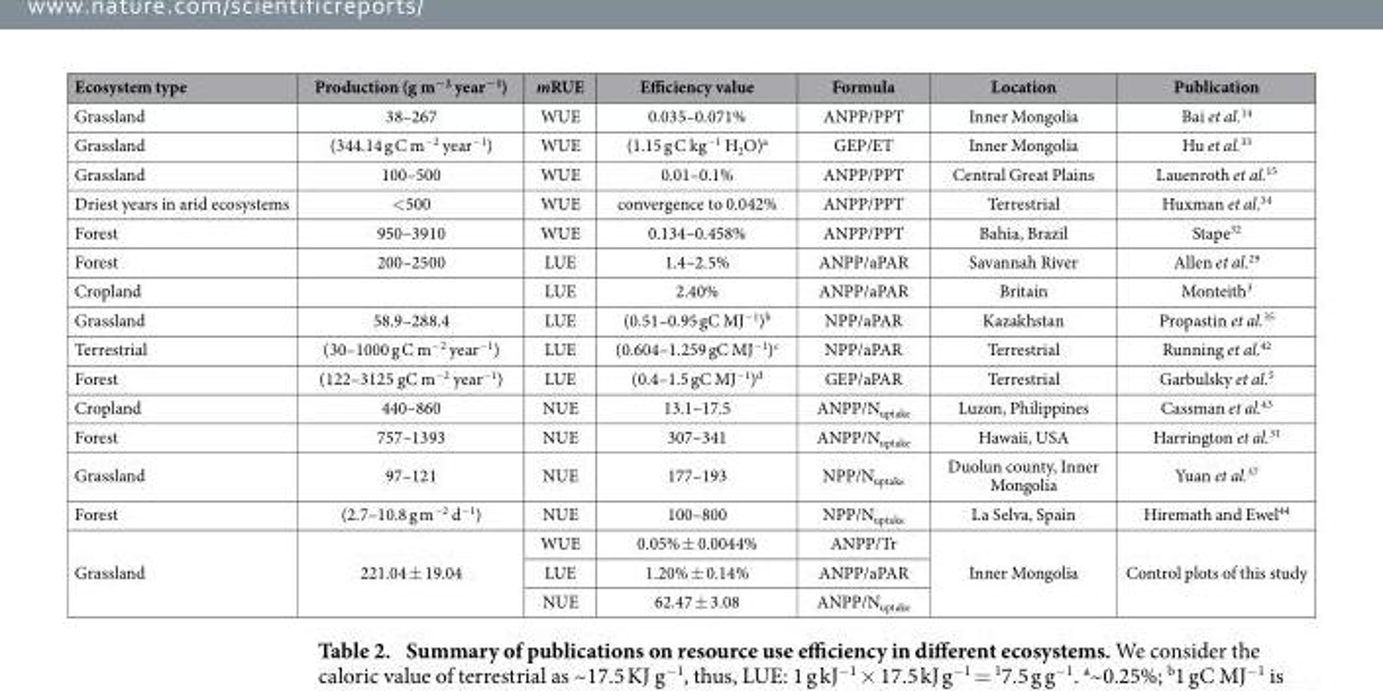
<table><thead><tr><td>Ecosystem type</td><td>Production (g m<sup>−2</sup> year<sup>−1</sup>)</td><td>mRUE</td><td>Efficiency value</td><td>Formula</td><td>Location</td><td>Publication</td></tr></thead><tbody><tr><td>Grassland</td><td>38–267</td><td>WUE</td><td>0.035–0.071%</td><td>ANPP/PPT</td><td>Inner Mongolia</td><td>Bai et al.<sup>14</sup></td></tr><tr><td>Grassland</td><td>(344.14 g C m<sup>−2</sup> year<sup>−1</sup>)</td><td>WUE</td><td>(1.15 g C kg<sup>−1</sup> H<sub>2</sub>O)<sup>a</sup></td><td>GEP/ET</td><td>Inner Mongolia</td><td>Hu et al.<sup>33</sup></td></tr><tr><td>Grassland</td><td>100–500</td><td>WUE</td><td>0.01–0.1%</td><td>ANPP/PPT</td><td>Central Great Plains</td><td>Lauenroth et al.<sup>15</sup></td></tr><tr><td>Driest years in arid ecosystems</td><td>&lt; 500</td><td>WUE</td><td>convergence to 0.042%</td><td>ANPP/PPT</td><td>Terrestrial</td><td>Huxman et al.<sup>34</sup></td></tr><tr><td>Forest</td><td>950–3910</td><td>WUE</td><td>0.134–0.458%</td><td>ANPP/PPT</td><td>Bahia, Brazil</td><td>Stape<sup>32</sup></td></tr><tr><td>Forest</td><td>200–2500</td><td>LUE</td><td>1.4–2.5%</td><td>ANPP/aPAR</td><td>Savannah River</td><td>Allen et al.<sup>29</sup></td></tr><tr><td>Cropland</td><td></td><td>LUE</td><td>2.40%</td><td>ANPP/aPAR</td><td>Britain</td><td>Monteith<sup>3</sup></td></tr><tr><td>Grassland</td><td>58.9–288.4</td><td>LUE</td><td>(0.51–0.95 gC MJ<sup>−1</sup>)<sup>b</sup></td><td>NPP/aPAR</td><td>Kazakhstan</td><td>Propastin et al.<sup>35</sup></td></tr><tr><td>Terrestrial</td><td>(30–1000 g C m<sup>−2</sup> year<sup>−1</sup>)</td><td>LUE</td><td>(0.604–1.259 gC MJ<sup>−1</sup>)<sup>c</sup></td><td>NPP/aPAR</td><td>Terrestrial</td><td>Running et al.<sup>42</sup></td></tr><tr><td>Forest</td><td>(122–3125 gC m<sup>−2</sup> year<sup>−1</sup>)</td><td>LUE</td><td>(0.4–1.5 gC MJ<sup>−1</sup>)<sup>d</sup></td><td>GEP/aPAR</td><td>Terrestrial</td><td>Garbulsky et al.<sup>5</sup></td></tr><tr><td>Cropland</td><td>440–860</td><td>NUE</td><td>13.1–17.5</td><td>ANPP/N<sub>uptake</sub></td><td>Luzon, Philippines</td><td>Cassman et al.<sup>43</sup></td></tr><tr><td>Forest</td><td>757–1393</td><td>NUE</td><td>307–341</td><td>ANPP/N<sub>uptake</sub></td><td>Hawaii, USA</td><td>Harrington et al.<sup>31</sup></td></tr><tr><td>Grassland</td><td>97–121</td><td>NUE</td><td>177–193</td><td>NPP/N<sub>uptake</sub></td><td>Duolun county, Inner Mongolia</td><td>Yuan et al.<sup>37</sup></td></tr><tr><td>Forest</td><td>(2.7–10.8 g m<sup>−2</sup> d<sup>−1</sup>)</td><td>NUE</td><td>100–800</td><td>NPP/N<sub>uptake</sub></td><td>La Selva, Spain</td><td>Hiremath and Ewel<sup>44</sup></td></tr><tr><td rowspan="3">Grassland</td><td rowspan="3">221.04 ± 19.04</td><td>WUE</td><td>0.05% ± 0.0044%</td><td>ANPP/Tr</td><td rowspan="3">Inner Mongolia</td><td rowspan="3">Control plots of this study</td></tr><tr><td>LUE</td><td>1.20% ± 0.14%</td><td>ANPP/aPAR</td></tr><tr><td>NUE</td><td>62.47 ± 3.08</td><td>ANPP/N<sub>uptake</sub></td></tr></tbody></table>